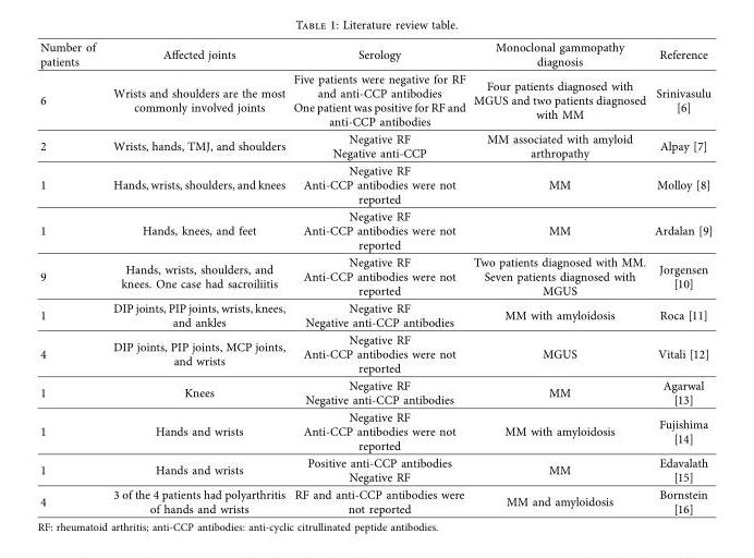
<table><thead><tr><td>Number of patients</td><td>Affected joints</td><td>Serology</td><td>Monoclonal gammopathy diagnosis</td><td>Reference</td></tr></thead><tbody><tr><td>6</td><td>Wrists and shoulders are the most commonly involved joints</td><td>Five patients were negative for RF and anti-CCP antibodies One patient was positive for RF and anti-CCP antibodies</td><td>Four patients diagnosed with MGUS and two patients diagnosed with MM</td><td>Srinivasulu [6]</td></tr><tr><td>2</td><td>Wrists, hands, TMJ, and shoulders</td><td>Negative RF Negative anti-CCP</td><td>MM associated with amyloid arthropathy</td><td>Alpay [7]</td></tr><tr><td>1</td><td>Hands, wrists, shoulders, and knees</td><td>Negative RF Anti-CCP antibodies were not reported</td><td>MM</td><td>Molloy [8]</td></tr><tr><td>1</td><td>Hands, knees, and feet</td><td>Negative RF Anti-CCP antibodies were not reported</td><td>MM</td><td>Ardalan [9]</td></tr><tr><td>9</td><td>Hands, wrists, shoulders, and knees. One case had sacroiliitis</td><td>Negative RF Anti-CCP antibodies were not reported</td><td>Two patients diagnosed with MM. Seven patients diagnosed with MGUS</td><td>Jorgensen [10]</td></tr><tr><td>1</td><td>DIP joints, PIP joints, wrists, knees, and ankles</td><td>Negative RF Negative anti-CCP antibodies</td><td>MM with amyloidosis</td><td>Roca [11]</td></tr><tr><td>4</td><td>DIP joints, PIP joints, MCP joints, and wrists</td><td>Negative RF Anti-CCP antibodies were not reported</td><td>MGUS</td><td>Vitali [12]</td></tr><tr><td>1</td><td>Knees</td><td>Negative RF Negative anti-CCP antibodies</td><td>MM</td><td>Agarwal [13]</td></tr><tr><td>1</td><td>Hands and wrists</td><td>Negative RF Anti-CCP antibodies were not reported</td><td>MM with amyloidosis</td><td>Fujishima [14]</td></tr><tr><td>1</td><td>Hands and wrists</td><td>Positive anti-CCP antibodies Negative RF</td><td>MM</td><td>Edavalath [15]</td></tr><tr><td>4</td><td>3 of the 4 patients had polyarthritis of hands and wrists</td><td>RF and anti-CCP antibodies were not reported</td><td>MM and amyloidosis</td><td>Bornstein [16]</td></tr></tbody></table>